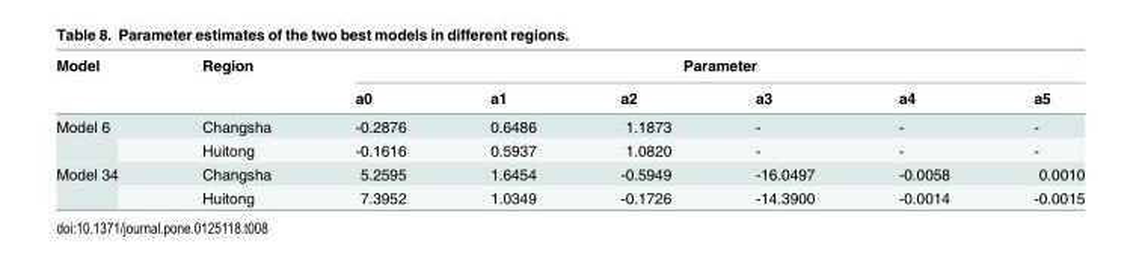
<table><thead><tr><td rowspan="2">Model</td><td rowspan="2">Region</td><td colspan="6">Parameter</td></tr><tr><td>a0</td><td>a1</td><td>a2</td><td>a3</td><td>a4</td><td>a5</td></tr></thead><tbody><tr><td rowspan="2">Model 6</td><td>Changsha</td><td>-0.2876</td><td>0.6486</td><td>1.1873</td><td>-</td><td>-</td><td>-</td></tr><tr><td>Huitong</td><td>-0.1616</td><td>0.5937</td><td>1.0820</td><td>-</td><td>-</td><td>-</td></tr><tr><td rowspan="2">Model 34</td><td>Changsha</td><td>5.2595</td><td>1.6454</td><td>-0.5949</td><td>-16.0497</td><td>-0.0058</td><td>0.0010</td></tr><tr><td>Huitong</td><td>7.3952</td><td>1.0349</td><td>-0.1726</td><td>-14.3900</td><td>-0.0014</td><td>-0.0015</td></tr></tbody></table>